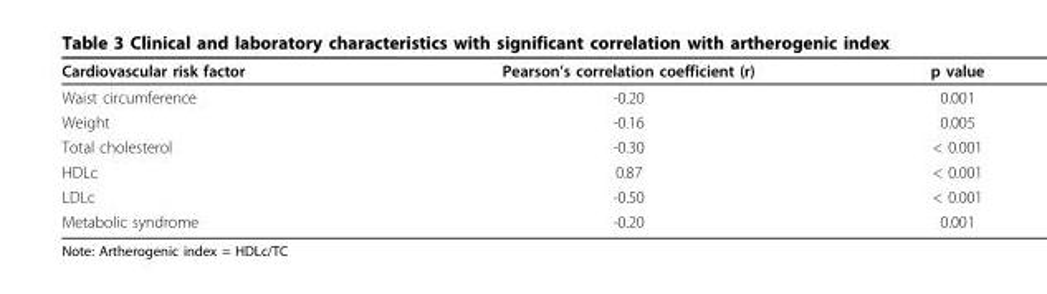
<table><thead><tr><td>Cardiovascular risk factor</td><td>Pearson’s correlation coefficient (r)</td><td>p value</td></tr></thead><tbody><tr><td>Waist circumference</td><td>-0.20</td><td>0.001</td></tr><tr><td>Weight</td><td>-0.16</td><td>0.005</td></tr><tr><td>Total cholesterol</td><td>-0.30</td><td>&lt; 0.001</td></tr><tr><td>HDLc</td><td>0.87</td><td>&lt; 0.001</td></tr><tr><td>LDLc</td><td>-0.50</td><td>&lt; 0.001</td></tr><tr><td>Metabolic syndrome</td><td>-0.20</td><td>0.001</td></tr></tbody></table>